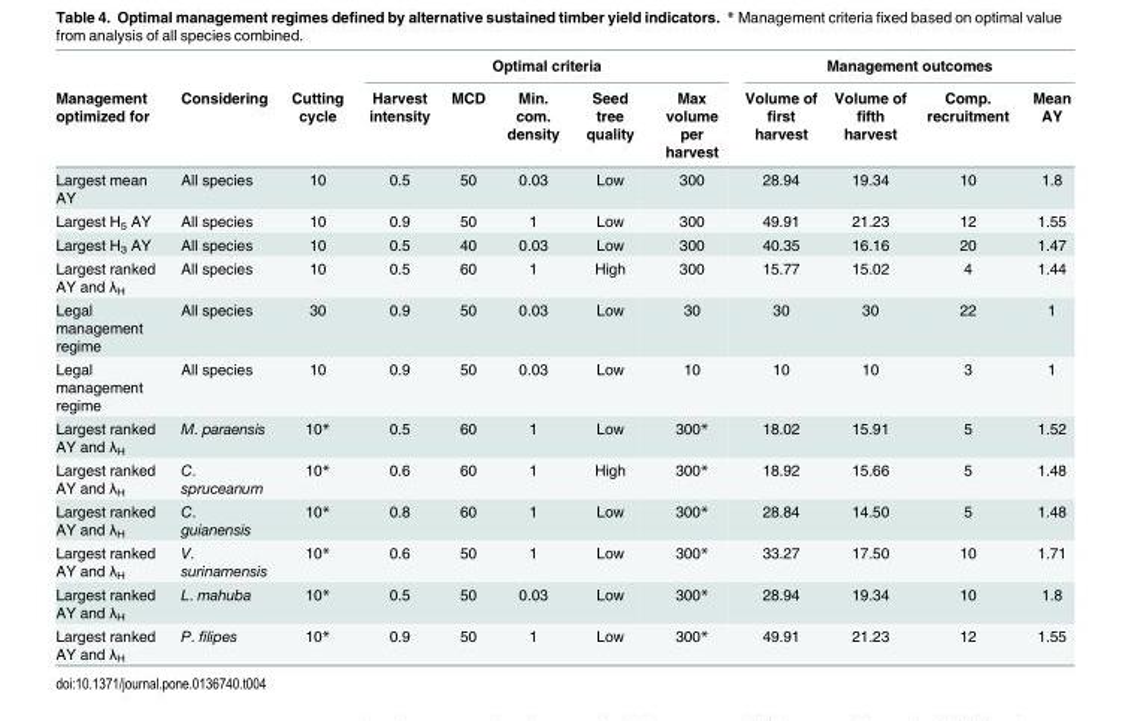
<table><thead><tr><td rowspan="2">Management optimized for</td><td rowspan="2">Considering</td><td rowspan="2">Cutting cycle</td><td colspan="5">Optimal criteria</td><td colspan="4">Management outcomes</td></tr><tr><td>Harvest intensity</td><td>MCD</td><td>Min. com. density</td><td>Seed tree quality</td><td>Max volume per harvest</td><td>Volume of first harvest</td><td>Volume of fifth harvest</td><td>Comp. recruitment</td><td>Mean AY</td></tr></thead><tbody><tr><td>Largest mean AY</td><td>All species</td><td>10</td><td>0.5</td><td>50</td><td>0.03</td><td>Low</td><td>300</td><td>28.94</td><td>19.34</td><td>10</td><td>1.8</td></tr><tr><td>Largest H<sub>5</sub> AY</td><td>All species</td><td>10</td><td>0.9</td><td>50</td><td>1</td><td>Low</td><td>300</td><td>49.91</td><td>21.23</td><td>12</td><td>1.55</td></tr><tr><td>Largest H<sub>3</sub> AY</td><td>All species</td><td>10</td><td>0.5</td><td>40</td><td>0.03</td><td>Low</td><td>300</td><td>40.35</td><td>16.16</td><td>20</td><td>1.47</td></tr><tr><td>Largest ranked AY and λ<sub>H</sub></td><td>All species</td><td>10</td><td>0.5</td><td>60</td><td>1</td><td>High</td><td>300</td><td>15.77</td><td>15.02</td><td>4</td><td>1.44</td></tr><tr><td>Legal management regime</td><td>All species</td><td>30</td><td>0.9</td><td>50</td><td>0.03</td><td>Low</td><td>30</td><td>30</td><td>30</td><td>22</td><td>1</td></tr><tr><td>Legal management regime</td><td>All species</td><td>10</td><td>0.9</td><td>50</td><td>0.03</td><td>Low</td><td>10</td><td>10</td><td>10</td><td>3</td><td>1</td></tr><tr><td>Largest ranked AY and λ<sub>H</sub></td><td>M. paraensis</td><td>10*</td><td>0.5</td><td>60</td><td>1</td><td>Low</td><td>300*</td><td>18.02</td><td>15.91</td><td>5</td><td>1.52</td></tr><tr><td>Largest ranked AY and λ<sub>H</sub></td><td>C. spruceanum</td><td>10*</td><td>0.6</td><td>60</td><td>1</td><td>High</td><td>300*</td><td>18.92</td><td>15.66</td><td>5</td><td>1.48</td></tr><tr><td>Largest ranked AY and λ<sub>H</sub></td><td>C. guianensis</td><td>10*</td><td>0.8</td><td>60</td><td>1</td><td>Low</td><td>300*</td><td>28.84</td><td>14.50</td><td>5</td><td>1.48</td></tr><tr><td>Largest ranked AY and λ<sub>H</sub></td><td>V. surinamensis</td><td>10*</td><td>0.6</td><td>50</td><td>1</td><td>Low</td><td>300*</td><td>33.27</td><td>17.50</td><td>10</td><td>1.71</td></tr><tr><td>Largest ranked AY and λ<sub>H</sub></td><td>L. mahuba</td><td>10*</td><td>0.5</td><td>50</td><td>0.03</td><td>Low</td><td>300*</td><td>28.94</td><td>19.34</td><td>10</td><td>1.8</td></tr><tr><td>Largest ranked AY and λ<sub>H</sub></td><td>P. filipes</td><td>10*</td><td>0.9</td><td>50</td><td>1</td><td>Low</td><td>300*</td><td>49.91</td><td>21.23</td><td>12</td><td>1.55</td></tr></tbody></table>